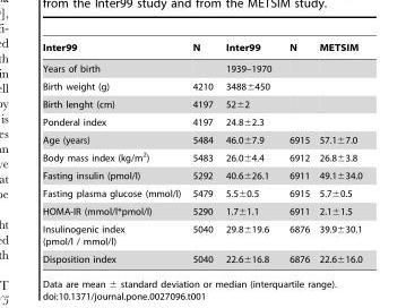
<table><thead><tr><td>Inter99</td><td>N</td><td>Inter99</td><td>N</td><td>METSIM</td></tr></thead><tbody><tr><td>Years of birth</td><td></td><td>1939–1970</td><td></td><td></td></tr><tr><td>Birth weight (g)</td><td>4210</td><td>3488±450</td><td></td><td></td></tr><tr><td>Birth lenght (cm)</td><td>4197</td><td>52±2</td><td></td><td></td></tr><tr><td>Ponderal index</td><td>4197</td><td>24.8±2.3</td><td></td><td></td></tr><tr><td>Age (years)</td><td>5484</td><td>46.0±7.9</td><td>6915</td><td>57.1±7.0</td></tr><tr><td>Body mass index (kg/m<sup>2</sup>)</td><td>5483</td><td>26.0±4.4</td><td>6912</td><td>26.8±3.8</td></tr><tr><td>Fasting insulin (pmol/l)</td><td>5292</td><td>40.6±26.1</td><td>6911</td><td>49.1±34.0</td></tr><tr><td>Fasting plasma glucose (mmol/l)</td><td>5479</td><td>5.5±0.5</td><td>6915</td><td>5.7±0.5</td></tr><tr><td>HOMA-IR (mmol/l*pmol/l)</td><td>5290</td><td>1.7±1.1</td><td>6911</td><td>2.1±1.5</td></tr><tr><td>Insulinogenic index (pmol/l / mmol/l)</td><td>5040</td><td>29.8±19.6</td><td>6876</td><td>39.9±30.1</td></tr><tr><td>Disposition index</td><td>5040</td><td>22.6±16.8</td><td>6876</td><td>22.6±16.0</td></tr></tbody></table>